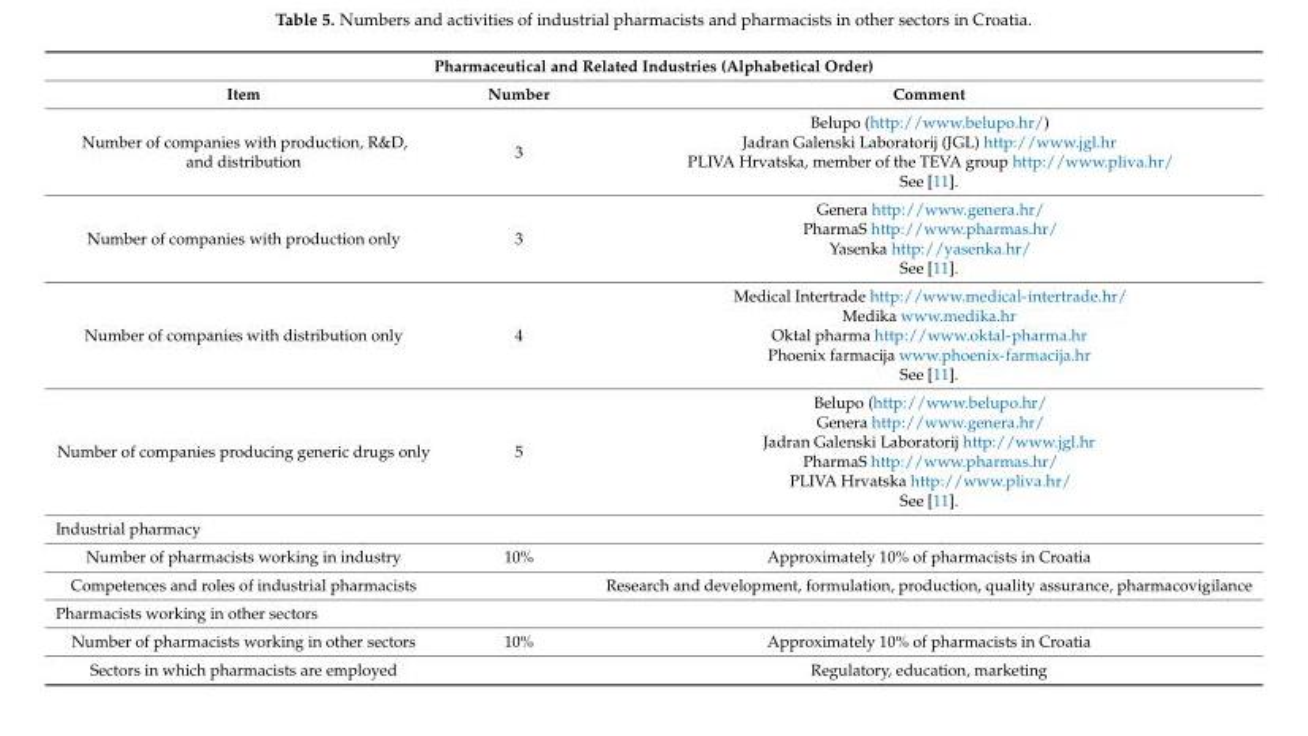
<table><thead><tr><td colspan="3">Pharmaceutical and Related Industries (Alphabetical Order)</td></tr><tr><td>Item</td><td>Number</td><td>Comment</td></tr></thead><tbody><tr><td>Number of companies with production, R&amp;D, and distribution</td><td>3</td><td>Belupo (http://www.belupo.hr/) Jadran Galenski Laboratorij (JGL) http://www.jgl.hr PLIVA Hrvatska, member of the TEVA group http://www.pliva.hr/ See [11].</td></tr><tr><td>Number of companies with production only</td><td>3</td><td>Genera http://www.genera.hr/ PharmaS http://www.pharmas.hr/ Yasenka http://yasenka.hr/ See [11].</td></tr><tr><td>Number of companies with distribution only</td><td>4</td><td>Medical Intertrade http://www.medical-intertrade.hr/ Medika www.medika.hr Oktal pharma http://www.oktal-pharma.hr Phoenix farmacija www.phoenix-farmacija.hr See [11].</td></tr><tr><td>Number of companies producing generic drugs only</td><td>5</td><td>Belupo (http://www.belupo.hr/ Genera http://www.genera.hr/ Jadran Galenski Laboratorij http://www.jgl.hr PharmaS http://www.pharmas.hr/ PLIVA Hrvatska http://www.pliva.hr/ See [11].</td></tr><tr><td colspan="3">Industrial pharmacy</td></tr><tr><td>Number of pharmacists working in industry</td><td>10%</td><td>Approximately 10% of pharmacists in Croatia</td></tr><tr><td>Competences and roles of industrial pharmacists</td><td></td><td>Research and development, formulation, production, quality assurance, pharmacovigilance</td></tr><tr><td colspan="3">Pharmacists working in other sectors</td></tr><tr><td>Number of pharmacists working in other sectors</td><td>10%</td><td>Approximately 10% of pharmacists in Croatia</td></tr><tr><td>Sectors in which pharmacists are employed</td><td></td><td>Regulatory, education, marketing</td></tr></tbody></table>